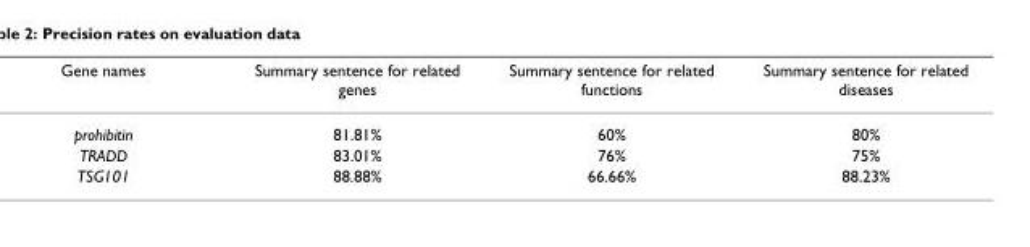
<table><thead><tr><td>Gene names</td><td>Summary sentence for related genes</td><td>Summary sentence for related functions</td><td>Summary sentence for related diseases</td></tr></thead><tbody><tr><td>prohibitin</td><td>81.81%</td><td>60%</td><td>80%</td></tr><tr><td>TRADD</td><td>83.01%</td><td>76%</td><td>75%</td></tr><tr><td>TSG101</td><td>88.88%</td><td>66.66%</td><td>88.23%</td></tr></tbody></table>